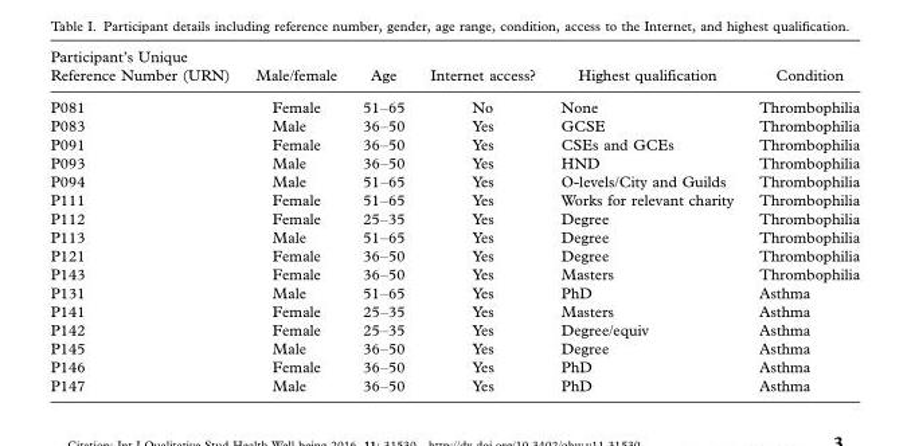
<table><thead><tr><td>Participant’s Unique Reference Number (URN)</td><td>Male/female</td><td>Age</td><td>Internet access?</td><td>Highest qualification</td><td>Condition</td></tr></thead><tbody><tr><td>P081</td><td>Female</td><td>51–65</td><td>No</td><td>None</td><td>Thrombophilia</td></tr><tr><td>P083</td><td>Male</td><td>36–50</td><td>Yes</td><td>GCSE</td><td>Thrombophilia</td></tr><tr><td>P091</td><td>Female</td><td>36–50</td><td>Yes</td><td>CSEs and GCEs</td><td>Thrombophilia</td></tr><tr><td>P093</td><td>Male</td><td>36–50</td><td>Yes</td><td>HND</td><td>Thrombophilia</td></tr><tr><td>P094</td><td>Male</td><td>51–65</td><td>Yes</td><td>O-levels/City and Guilds</td><td>Thrombophilia</td></tr><tr><td>P111</td><td>Female</td><td>51–65</td><td>Yes</td><td>Works for relevant charity</td><td>Thrombophilia</td></tr><tr><td>P112</td><td>Female</td><td>25–35</td><td>Yes</td><td>Degree</td><td>Thrombophilia</td></tr><tr><td>P113</td><td>Male</td><td>51–65</td><td>Yes</td><td>Degree</td><td>Thrombophilia</td></tr><tr><td>P121</td><td>Female</td><td>36–50</td><td>Yes</td><td>Degree</td><td>Thrombophilia</td></tr><tr><td>P143</td><td>Female</td><td>36–50</td><td>Yes</td><td>Masters</td><td>Thrombophilia</td></tr><tr><td>P131</td><td>Male</td><td>51–65</td><td>Yes</td><td>PhD</td><td>Asthma</td></tr><tr><td>P141</td><td>Female</td><td>25–35</td><td>Yes</td><td>Masters</td><td>Asthma</td></tr><tr><td>P142</td><td>Female</td><td>25–35</td><td>Yes</td><td>Degree/equiv</td><td>Asthma</td></tr><tr><td>P145</td><td>Male</td><td>36–50</td><td>Yes</td><td>Degree</td><td>Asthma</td></tr><tr><td>P146</td><td>Female</td><td>36–50</td><td>Yes</td><td>PhD</td><td>Asthma</td></tr><tr><td>P147</td><td>Male</td><td>36–50</td><td>Yes</td><td>PhD</td><td>Asthma</td></tr></tbody></table>